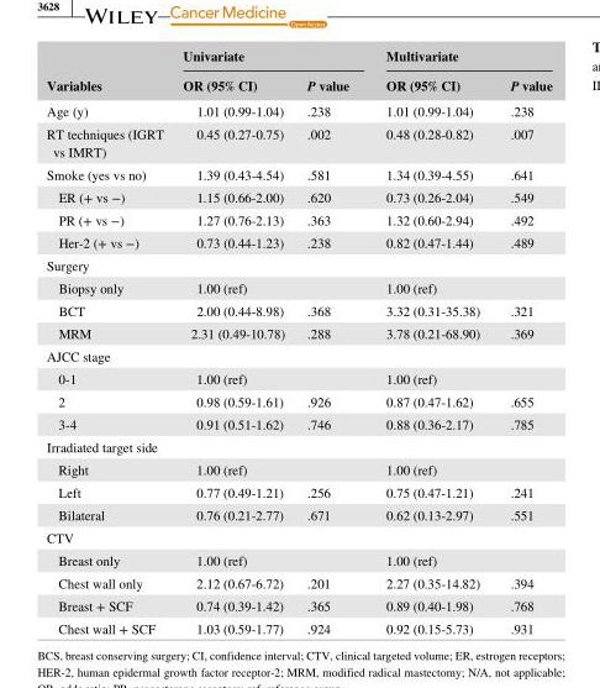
<table><thead><tr><td rowspan="2">Variables</td><td colspan="2">Univariate</td><td colspan="2">Multivariate</td></tr><tr><td>OR (95% CI)</td><td>P value</td><td>OR (95% CI)</td><td>P value</td></tr></thead><tbody><tr><td>Age (y)</td><td>1.01 (0.99- 1.04)</td><td>.238</td><td>1.01 (0.99- 1.04)</td><td>.238</td></tr><tr><td>RT techniques (IGRT vs IMRT)</td><td>0.45 (0.27- 0.75)</td><td>.002</td><td>0.48 (0.28- 0.82)</td><td>.007</td></tr><tr><td>Smoke (yes vs no)</td><td>1.39 (0.43- 4.54)</td><td>.581</td><td>1.34 (0.39- 4.55)</td><td>.641</td></tr><tr><td>ER (+ vs −)</td><td>1.15 (0.66- 2.00)</td><td>.620</td><td>0.73 (0.26- 2.04)</td><td>.549</td></tr><tr><td>PR (+ vs −)</td><td>1.27 (0.76- 2.13)</td><td>.363</td><td>1.32 (0.60- 2.94)</td><td>.492</td></tr><tr><td>Her- 2 (+ vs −)</td><td>0.73 (0.44- 1.23)</td><td>.238</td><td>0.82 (0.47- 1.44)</td><td>.489</td></tr><tr><td colspan="5">Surgery</td></tr><tr><td>Biopsy only</td><td>1.00 (ref)</td><td></td><td>1.00 (ref)</td><td></td></tr><tr><td>BCT</td><td>2.00 (0.44- 8.98)</td><td>.368</td><td>3.32 (0.31- 35.38)</td><td>.321</td></tr><tr><td>MRM</td><td>2.31 (0.49- 10.78)</td><td>.288</td><td>3.78 (0.21- 68.90)</td><td>.369</td></tr><tr><td colspan="5">AJCC stage</td></tr><tr><td>0- 1</td><td>1.00 (ref)</td><td></td><td>1.00 (ref)</td><td></td></tr><tr><td>2</td><td>0.98 (0.59- 1.61)</td><td>.926</td><td>0.87 (0.47- 1.62)</td><td>.655</td></tr><tr><td>3- 4</td><td>0.91 (0.51- 1.62)</td><td>.746</td><td>0.88 (0.36- 2.17)</td><td>.785</td></tr><tr><td colspan="5">Irradiated target side</td></tr><tr><td>Right</td><td>1.00 (ref)</td><td></td><td>1.00 (ref)</td><td></td></tr><tr><td>Left</td><td>0.77 (0.49- 1.21)</td><td>.256</td><td>0.75 (0.47- 1.21)</td><td>.241</td></tr><tr><td>Bilateral</td><td>0.76 (0.21- 2.77)</td><td>.671</td><td>0.62 (0.13- 2.97)</td><td>.551</td></tr><tr><td colspan="5">CTV</td></tr><tr><td>Breast only</td><td>1.00 (ref)</td><td></td><td>1.00 (ref)</td><td></td></tr><tr><td>Chest wall only</td><td>2.12 (0.67- 6.72)</td><td>.201</td><td>2.27 (0.35- 14.82)</td><td>.394</td></tr><tr><td>Breast + SCF</td><td>0.74 (0.39- 1.42)</td><td>.365</td><td>0.89 (0.40- 1.98)</td><td>.768</td></tr><tr><td>Chest wall + SCF</td><td>1.03 (0.59- 1.77)</td><td>.924</td><td>0.92 (0.15- 5.73)</td><td>.931</td></tr></tbody></table>